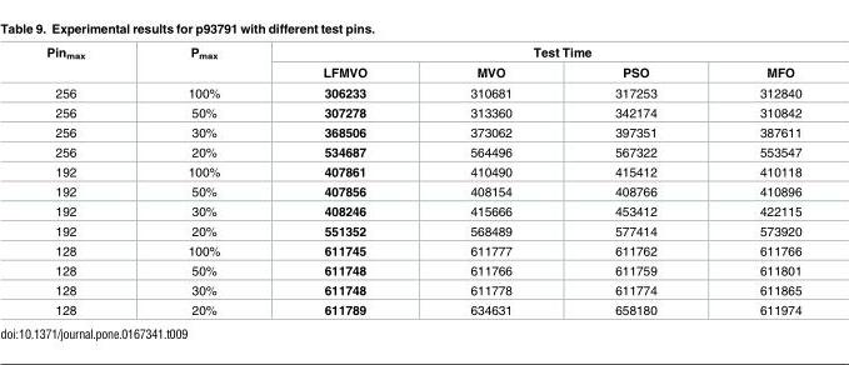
<table><thead><tr><td rowspan="2">Pin<sub>max</sub></td><td rowspan="2">P<sub>max</sub></td><td colspan="4">Test Time</td></tr><tr><td>LFMVO</td><td>MVO</td><td>PSO</td><td>MFO</td></tr></thead><tbody><tr><td>256</td><td>100%</td><td>306233</td><td>310681</td><td>317253</td><td>312840</td></tr><tr><td>256</td><td>50%</td><td>307278</td><td>313360</td><td>342174</td><td>310842</td></tr><tr><td>256</td><td>30%</td><td>368506</td><td>373062</td><td>397351</td><td>387611</td></tr><tr><td>256</td><td>20%</td><td>534687</td><td>564496</td><td>567322</td><td>553547</td></tr><tr><td>192</td><td>100%</td><td>407861</td><td>410490</td><td>415412</td><td>410118</td></tr><tr><td>192</td><td>50%</td><td>407856</td><td>408154</td><td>408766</td><td>410896</td></tr><tr><td>192</td><td>30%</td><td>408246</td><td>415666</td><td>453412</td><td>422115</td></tr><tr><td>192</td><td>20%</td><td>551352</td><td>568489</td><td>577414</td><td>573920</td></tr><tr><td>128</td><td>100%</td><td>611745</td><td>611777</td><td>611762</td><td>611766</td></tr><tr><td>128</td><td>50%</td><td>611748</td><td>611766</td><td>611759</td><td>611801</td></tr><tr><td>128</td><td>30%</td><td>611748</td><td>611778</td><td>611774</td><td>611865</td></tr><tr><td>128</td><td>20%</td><td>611789</td><td>634631</td><td>658180</td><td>611974</td></tr></tbody></table>